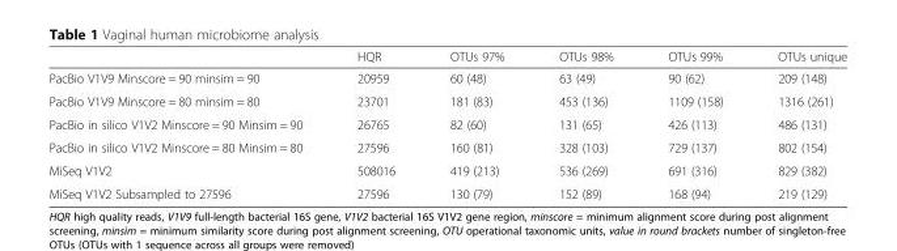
<table><thead><tr><td></td><td>HQR</td><td>OTUs 97%</td><td>OTUs 98%</td><td>OTUs 99%</td><td>OTUs unique</td></tr></thead><tbody><tr><td>PacBio V1V9 Minscore = 90 minsim = 90</td><td>20959</td><td>60 (48)</td><td>63 (49)</td><td>90 (62)</td><td>209 (148)</td></tr><tr><td>PacBio V1V9 Minscore = 80 minsim = 80</td><td>23701</td><td>181 (83)</td><td>453 (136)</td><td>1109 (158)</td><td>1316 (261)</td></tr><tr><td>PacBio in silico V1V2 Minscore = 90 Minsim = 90</td><td>26765</td><td>82 (60)</td><td>131 (65)</td><td>426 (113)</td><td>486 (131)</td></tr><tr><td>PacBio in silico V1V2 Minscore = 80 Minsim = 80</td><td>27596</td><td>160 (81)</td><td>328 (103)</td><td>729 (137)</td><td>802 (154)</td></tr><tr><td>MiSeq V1V2</td><td>508016</td><td>419 (213)</td><td>536 (269)</td><td>691 (316)</td><td>829 (382)</td></tr><tr><td>MiSeq V1V2 Subsampled to 27596</td><td>27596</td><td>130 (79)</td><td>152 (89)</td><td>168 (94)</td><td>219 (129)</td></tr></tbody></table>